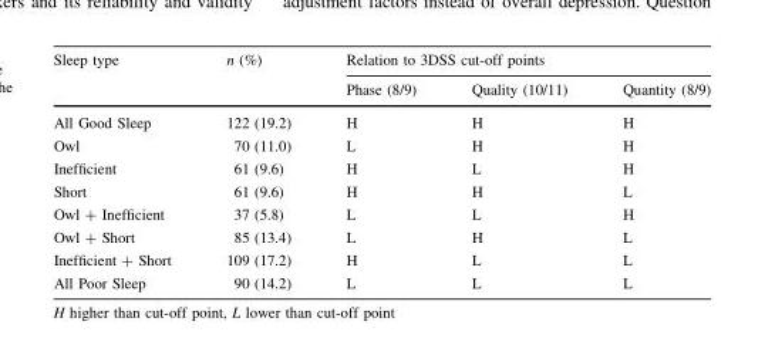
<table><thead><tr><td rowspan="2">Sleep type</td><td rowspan="2">n (%)</td><td colspan="3">Relation to 3DSS cut-off points</td></tr><tr><td>Phase (8/9)</td><td>Quality (10/11)</td><td>Quantity (8/9)</td></tr></thead><tbody><tr><td>All Good Sleep</td><td>122 (19.2)</td><td>H</td><td>H</td><td>H</td></tr><tr><td>Owl</td><td>70 (11.0)</td><td>L</td><td>H</td><td>H</td></tr><tr><td>Inefficient</td><td>61 (9.6)</td><td>H</td><td>L</td><td>H</td></tr><tr><td>Short</td><td>61 (9.6)</td><td>H</td><td>H</td><td>L</td></tr><tr><td>Owl + Inefficient</td><td>37 (5.8)</td><td>L</td><td>L</td><td>H</td></tr><tr><td>Owl + Short</td><td>85 (13.4)</td><td>L</td><td>H</td><td>L</td></tr><tr><td>Inefficient + Short</td><td>109 (17.2)</td><td>H</td><td>L</td><td>L</td></tr><tr><td>All Poor Sleep</td><td>90 (14.2)</td><td>L</td><td>L</td><td>L</td></tr></tbody></table>